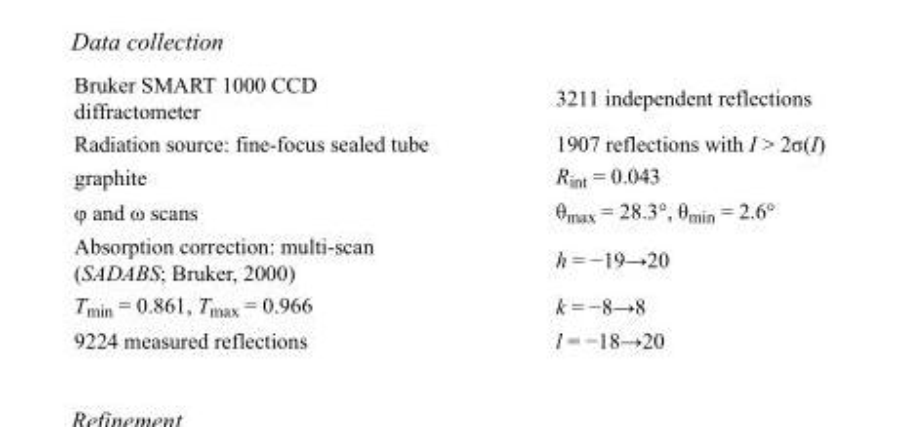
<table><tbody><tr><td>Bruker SMART 1000 CCD diffractometer</td><td>3211 independent reflections</td></tr><tr><td>Radiation source: fine-focus sealed tube</td><td>1907 reflections with I &gt; 2σ(I)</td></tr><tr><td>graphite</td><td>R<sub>int</sub> = 0.043</td></tr><tr><td>φ and ω scans</td><td>θ<sub>max</sub> = 28.3°, θ<sub>min</sub> = 2.6°</td></tr><tr><td>Absorption correction: multi-scan (SADABS; Bruker, 2000)</td><td>h = −19→20</td></tr><tr><td>T<sub>min</sub> = 0.861, T<sub>max</sub> = 0.966</td><td>k = −8→8</td></tr><tr><td>9224 measured reflections</td><td>l = −18→20</td></tr></tbody></table>